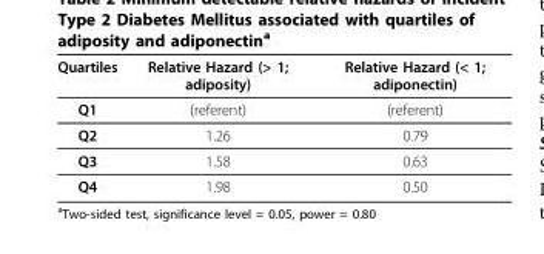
<table><thead><tr><td>Quartiles</td><td>Relative Hazard (&gt; 1; adiposity)</td><td>Relative Hazard (&lt; 1; adiponectin)</td></tr></thead><tbody><tr><td>Q1</td><td>(referent)</td><td>(referent)</td></tr><tr><td>Q2</td><td>1.26</td><td>0.79</td></tr><tr><td>Q3</td><td>1.58</td><td>0.63</td></tr><tr><td>Q4</td><td>1.98</td><td>0.50</td></tr></tbody></table>